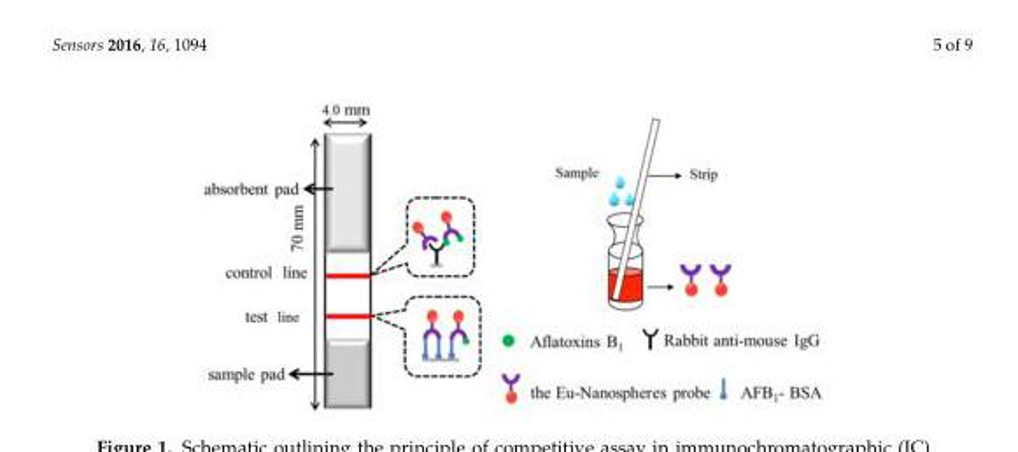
<table><thead><tr><td rowspan="2">Sample</td><td rowspan="2">Number</td><td rowspan="2">Spike µg·kg<sup>−1</sup></td><td colspan="6">Result by TRFIA µg·kg<sup>−1</sup></td><td rowspan="2">CV%</td><td rowspan="2">Recovery %</td></tr><tr><td>1</td><td>2</td><td>3</td><td>4</td><td>5</td><td>Mean</td></tr></thead><tbody><tr><td rowspan="5">Soybean sauce</td><td>1</td><td>ND</td><td>ND</td><td>ND</td><td>ND</td><td>ND</td><td>ND</td><td>-</td><td>-</td><td>-</td></tr><tr><td>2</td><td>0.80</td><td>0.99</td><td>0.97</td><td>0.90</td><td>0.79</td><td>0.92</td><td>0.91</td><td>8.6</td><td>114.3</td></tr><tr><td>3</td><td>4.00</td><td>4.57</td><td>3.88</td><td>3.69</td><td>4.33</td><td>4.22</td><td>4.14</td><td>8.5</td><td>103.5</td></tr><tr><td>4</td><td>8.00</td><td>7.90</td><td>7.39</td><td>7.74</td><td>8.43</td><td>7.26</td><td>7.75</td><td>6.0</td><td>96.8</td></tr><tr><td>5</td><td>12.00</td><td>11.45</td><td>11.98</td><td>13.01</td><td>12.89</td><td>12.87</td><td>12.44</td><td>5.7</td><td>103.7</td></tr><tr><td rowspan="5">Soybean sauce</td><td>1</td><td>ND</td><td>ND</td><td>ND</td><td>ND</td><td>ND</td><td>ND</td><td>-</td><td>-</td><td>-</td></tr><tr><td>2</td><td>2.00</td><td>2.10</td><td>2.07</td><td>1.93</td><td>2.20</td><td>2.29</td><td>2.12</td><td>6.4</td><td>105.9</td></tr><tr><td>3</td><td>5.00</td><td>5.02</td><td>5.24</td><td>5.46</td><td>5.34</td><td>5.09</td><td>5.23</td><td>3.4</td><td>104.6</td></tr><tr><td>4</td><td>10.00</td><td>9.42</td><td>9.89</td><td>9.65</td><td>10.37</td><td>10.57</td><td>9.98</td><td>4.5</td><td>99.8</td></tr><tr><td>5</td><td>15.00</td><td>12.98</td><td>12.07</td><td>13.58</td><td>13.12</td><td>13.68</td><td>13.09</td><td>5.0</td><td>87.2</td></tr><tr><td>Average</td><td></td><td></td><td></td><td></td><td></td><td></td><td></td><td></td><td>6.0</td><td>110.0</td></tr></tbody></table>